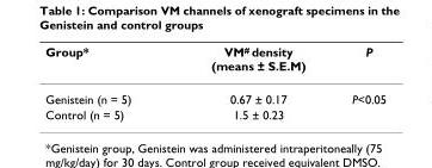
<table><thead><tr><td>Group*</td><td>VM<sup>#</sup> density (means ± S.E.M)</td><td>P</td></tr></thead><tbody><tr><td>Genistein (n = 5)</td><td>0.67 ± 0.17</td><td>P&lt;0.05</td></tr><tr><td>Control (n = 5)</td><td>1.5 ± 0.23</td><td></td></tr></tbody></table>